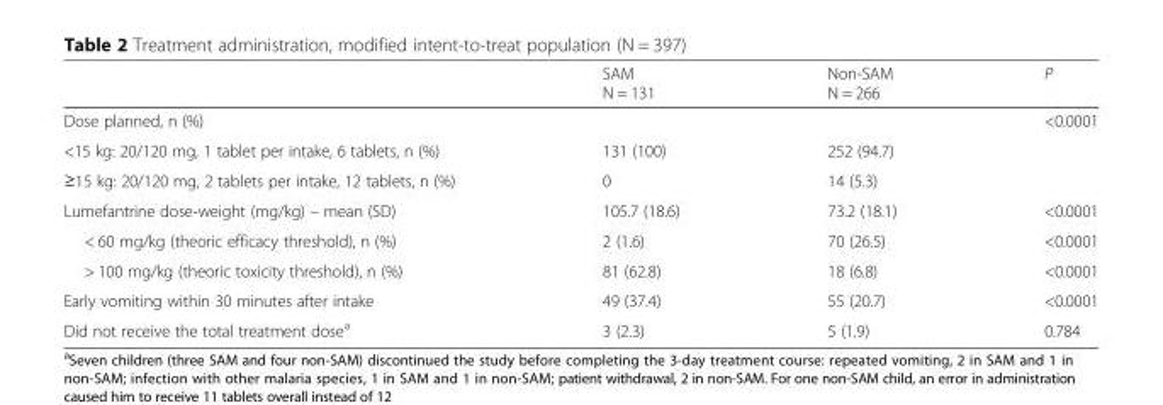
<table><thead><tr><td></td><td>SAM N = 131</td><td>Non-SAM N = 266</td><td>P</td></tr></thead><tbody><tr><td colspan="3">Dose planned, n (%)</td><td rowspan="3">&lt;0.0001</td></tr><tr><td>&lt;15 kg: 20/120 mg, 1 tablet per intake, 6 tablets, n (%)</td><td>131 (100)</td><td>252 (94.7)</td></tr><tr><td>≥15 kg: 20/120 mg, 2 tablets per intake, 12 tablets, n (%)</td><td>0</td><td>14 (5.3)</td></tr><tr><td>Lumefantrine dose-weight (mg/kg) – mean (SD)</td><td>105.7 (18.6)</td><td>73.2 (18.1)</td><td>&lt;0.0001</td></tr><tr><td>&lt; 60 mg/kg (theoric efficacy threshold), n (%)</td><td>2 (1.6)</td><td>70 (26.5)</td><td>&lt;0.0001</td></tr><tr><td>&gt; 100 mg/kg (theoric toxicity threshold), n (%)</td><td>81 (62.8)</td><td>18 (6.8)</td><td>&lt;0.0001</td></tr><tr><td>Early vomiting within 30 minutes after intake</td><td>49 (37.4)</td><td>55 (20.7)</td><td>&lt;0.0001</td></tr><tr><td>Did not receive the total treatment dose<sup>a</sup></td><td>3 (2.3)</td><td>5 (1.9)</td><td>0.784</td></tr></tbody></table>